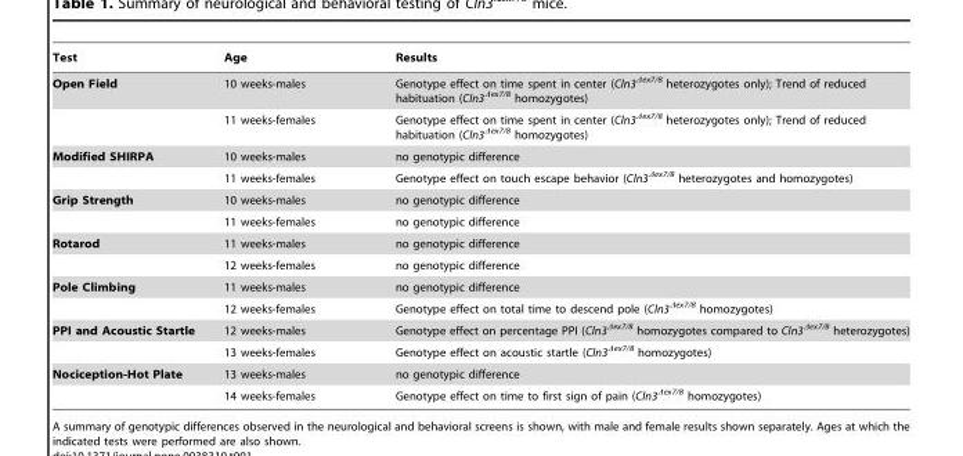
<table><thead><tr><td>Test</td><td>Age</td><td>Results</td></tr></thead><tbody><tr><td rowspan="2">Open Field</td><td>10 weeks-males</td><td>Genotype effect on time spent in center (Cln3<sup>Δex7/8</sup> heterozygotes only); Trend of reduced habituation (Cln3<sup>Δex7/8</sup> homozygotes)</td></tr><tr><td>11 weeks-females</td><td>Genotype effect on time spent in center (Cln3<sup>Δex7/8</sup> heterozygotes only); Trend of reduced habituation (Cln3<sup>Δex7/8</sup> homozygotes)</td></tr><tr><td rowspan="2">Modified SHIRPA</td><td>10 weeks-males</td><td>no genotypic difference</td></tr><tr><td>11 weeks-females</td><td>Genotype effect on touch escape behavior (Cln3<sup>Δex7/8</sup> heterozygotes and homozygotes)</td></tr><tr><td rowspan="2">Grip Strength</td><td>10 weeks-males</td><td>no genotypic difference</td></tr><tr><td>11 weeks-females</td><td>no genotypic difference</td></tr><tr><td rowspan="2">Rotarod</td><td>11 weeks-males</td><td>no genotypic difference</td></tr><tr><td>12 weeks-females</td><td>no genotypic difference</td></tr><tr><td rowspan="2">Pole Climbing</td><td>11 weeks-males</td><td>no genotypic difference</td></tr><tr><td>12 weeks-females</td><td>Genotype effect on total time to descend pole (Cln3<sup>Δex7/8</sup> homozygotes)</td></tr><tr><td rowspan="2">PPI and Acoustic Startle</td><td>12 weeks-males</td><td>Genotype effect on percentage PPI (Cln3<sup>Δex7/8</sup> homozygotes compared to Cln3<sup>Δex7/8</sup> heterozygotes)</td></tr><tr><td>13 weeks-females</td><td>Genotype effect on acoustic startle (Cln3<sup>Δex7/8</sup> homozygotes)</td></tr><tr><td rowspan="2">Nociception-Hot Plate</td><td>13 weeks-males</td><td>no genotypic difference</td></tr><tr><td>14 weeks-females</td><td>Genotype effect on time to first sign of pain (Cln3<sup>Δex7/8</sup> homozygotes)</td></tr></tbody></table>